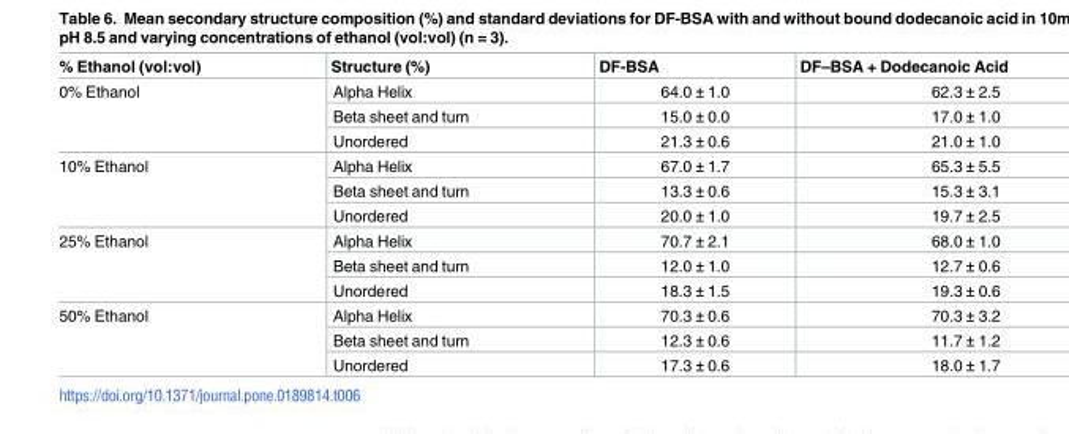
<table><thead><tr><td>% Ethanol (vol:vol)</td><td>Structure (%)</td><td>DF-BSA</td><td>DF–BSA + Dodecanoic Acid</td></tr></thead><tbody><tr><td rowspan="3">0% Ethanol</td><td>Alpha Helix</td><td>64.0 ± 1.0</td><td>62.3 ± 2.5</td></tr><tr><td>Beta sheet and turn</td><td>15.0 ± 0.0</td><td>17.0 ± 1.0</td></tr><tr><td>Unordered</td><td>21.3 ± 0.6</td><td>21.0 ± 1.0</td></tr><tr><td rowspan="3">10% Ethanol</td><td>Alpha Helix</td><td>67.0 ± 1.7</td><td>65.3 ± 5.5</td></tr><tr><td>Beta sheet and turn</td><td>13.3 ± 0.6</td><td>15.3 ± 3.1</td></tr><tr><td>Unordered</td><td>20.0 ± 1.0</td><td>19.7 ± 2.5</td></tr><tr><td rowspan="3">25% Ethanol</td><td>Alpha Helix</td><td>70.7 ± 2.1</td><td>68.0 ± 1.0</td></tr><tr><td>Beta sheet and turn</td><td>12.0 ± 1.0</td><td>12.7 ± 0.6</td></tr><tr><td>Unordered</td><td>18.3 ± 1.5</td><td>19.3 ± 0.6</td></tr><tr><td rowspan="3">50% Ethanol</td><td>Alpha Helix</td><td>70.3 ± 0.6</td><td>70.3 ± 3.2</td></tr><tr><td>Beta sheet and turn</td><td>12.3 ± 0.6</td><td>11.7 ± 1.2</td></tr><tr><td>Unordered</td><td>17.3 ± 0.6</td><td>18.0 ± 1.7</td></tr></tbody></table>